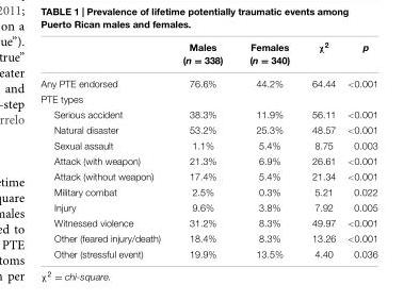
<table><thead><tr><td></td><td>Males (n = 338)</td><td>Females (n = 340)</td><td>χ<sup>2</sup></td><td>p</td></tr></thead><tbody><tr><td>Any PTE endorsed</td><td>76.6%</td><td>44.2%</td><td>64.44</td><td>&lt;0.001</td></tr><tr><td colspan="5">PTE types</td></tr><tr><td>Serious accident</td><td>38.3%</td><td>11.9%</td><td>56.11</td><td>&lt;0.001</td></tr><tr><td>Natural disaster</td><td>53.2%</td><td>25.3%</td><td>48.57</td><td>&lt;0.001</td></tr><tr><td>Sexual assault</td><td>1.1%</td><td>5.4%</td><td>8.75</td><td>0.003</td></tr><tr><td>Attack (with weapon)</td><td>21.3%</td><td>6.9%</td><td>26.61</td><td>&lt;0.001</td></tr><tr><td>Attack (without weapon)</td><td>17.4%</td><td>5.4%</td><td>21.34</td><td>&lt;0.001</td></tr><tr><td>Military combat</td><td>2.5%</td><td>0.3%</td><td>5.21</td><td>0.022</td></tr><tr><td>Injury</td><td>9.6%</td><td>3.8%</td><td>7.92</td><td>0.005</td></tr><tr><td>Witnessed violence</td><td>31.2%</td><td>8.3%</td><td>49.97</td><td>&lt;0.001</td></tr><tr><td>Other (feared injury/death)</td><td>18.4%</td><td>8.3%</td><td>13.26</td><td>&lt;0.001</td></tr><tr><td>Other (stressful event)</td><td>19.9%</td><td>13.5%</td><td>4.40</td><td>0.036</td></tr></tbody></table>